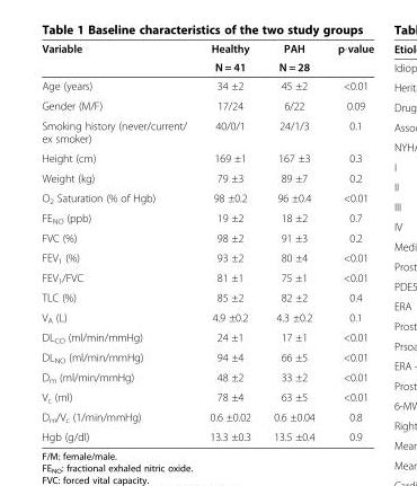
<table><thead><tr><td rowspan="2">Variable</td><td rowspan="2">Healthy N = 41</td><td rowspan="2">PAH N = 28</td><td rowspan="2">p-value</td></tr><tr></tr></thead><tbody><tr><td>Age (years)</td><td>34 ±2</td><td>45 ±2</td><td>&lt;0.01</td></tr><tr><td>Gender (M/F)</td><td>17/24</td><td>6/22</td><td>0.09</td></tr><tr><td>Smoking history (never/current/ ex smoker)</td><td>40/0/1</td><td>24/1/3</td><td>0.1</td></tr><tr><td>Height (cm)</td><td>169 ±1</td><td>167 ±3</td><td>0.3</td></tr><tr><td>Weight (kg)</td><td>79 ±3</td><td>89 ±7</td><td>0.2</td></tr><tr><td>O<sub>2</sub> Saturation (% of Hgb)</td><td>98 ±0.2</td><td>96 ±0.4</td><td>&lt;0.01</td></tr><tr><td>FE<sub>NO</sub> (ppb)</td><td>19 ±2</td><td>18 ±2</td><td>0.7</td></tr><tr><td>FVC (%)</td><td>98 ±2</td><td>91 ±3</td><td>0.2</td></tr><tr><td>FEV<sub>1</sub> (%)</td><td>93 ±2</td><td>80 ±4</td><td>&lt;0.01</td></tr><tr><td>FEV<sub>1</sub>/FVC</td><td>81 ±1</td><td>75 ±1</td><td>&lt;0.01</td></tr><tr><td>TLC (%)</td><td>85 ±2</td><td>82 ±2</td><td>0.4</td></tr><tr><td>V<sub>A</sub> (L)</td><td>4.9 ±0.2</td><td>4.3 ±0.2</td><td>0.1</td></tr><tr><td>DL<sub>CO</sub> (ml/min/mmHg)</td><td>24 ±1</td><td>17 ±1</td><td>&lt;0.01</td></tr><tr><td>DL<sub>NO</sub> (ml/min/mmHg)</td><td>94 ±4</td><td>66 ±5</td><td>&lt;0.01</td></tr><tr><td>D<sub>m</sub> (ml/min/mmHg)</td><td>48 ±2</td><td>33 ±2</td><td>&lt;0.01</td></tr><tr><td>V<sub>c</sub> (ml)</td><td>78 ±4</td><td>63 ±5</td><td>&lt;0.01</td></tr><tr><td>D<sub>m</sub>/V<sub>c</sub> (1/min/mmHg)</td><td>0.6 ±0.02</td><td>0.6 ±0.04</td><td>0.8</td></tr><tr><td>Hgb (g/dl)</td><td>13.3 ±0.3</td><td>13.5 ±0.4</td><td>0.9</td></tr></tbody></table>